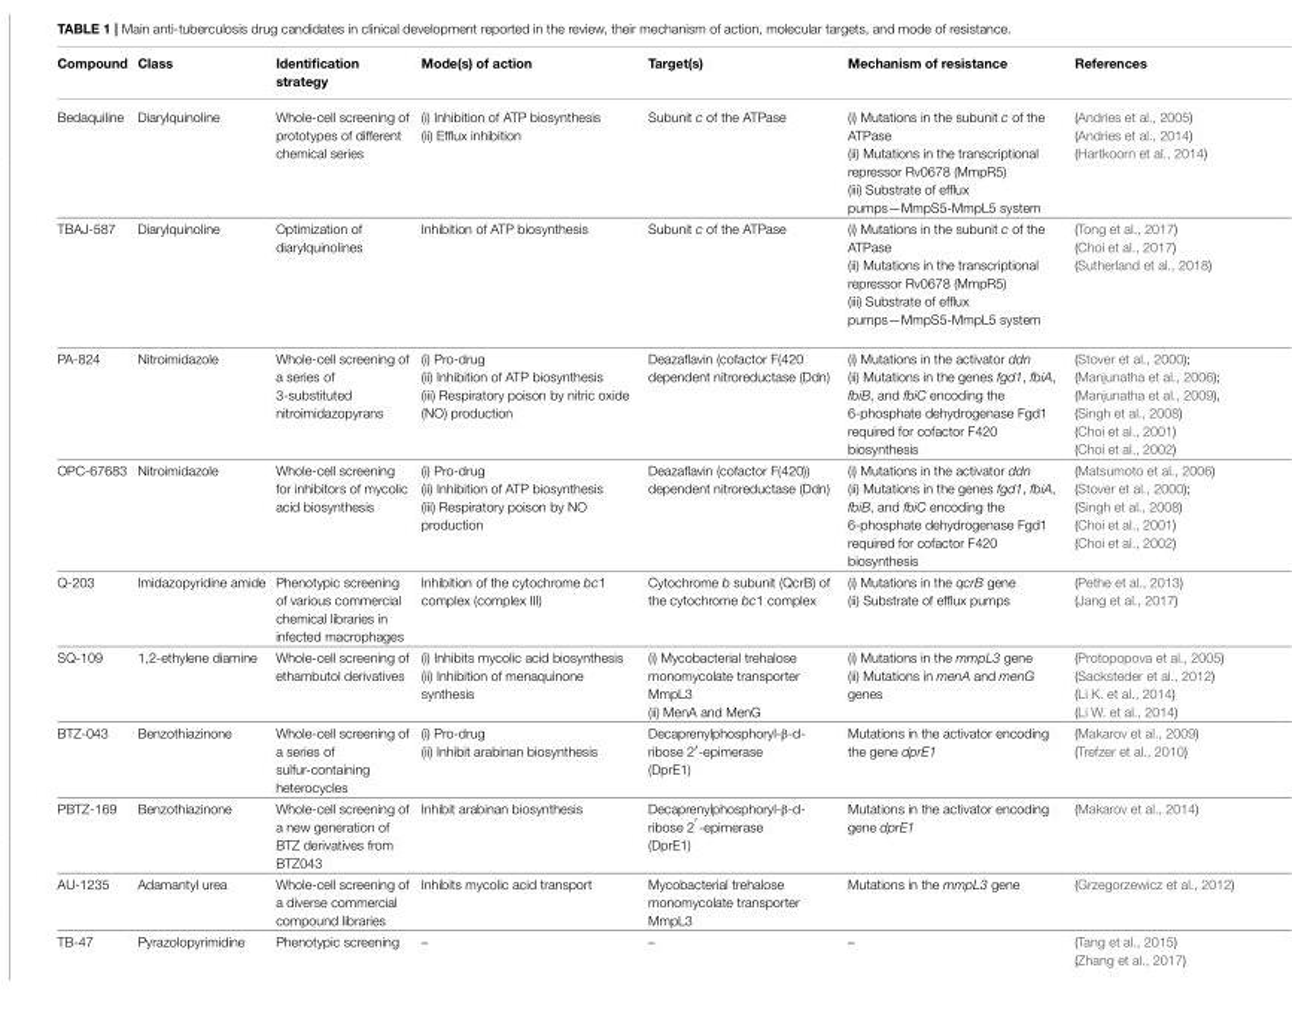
<table><thead><tr><td>Compound</td><td>Class</td><td>Identification strategy</td><td>Mode(s) of action</td><td>Target(s)</td><td>Mechanism of resistance</td><td>References</td></tr></thead><tbody><tr><td>Bedaquiline</td><td>Diarylquinoline</td><td>Whole-cell screening of prototypes of different chemical series</td><td>(i) Inhibition of ATP biosynthesis (ii) Efflux inhibition</td><td>Subunit c of the ATPase</td><td>(i) Mutations in the subunit c of the ATPase (ii) Mutations in the transcriptional repressor Rv0678 (MmpR5) (iii) Substrate of efflux pumps—MmpS5-MmpL5 system</td><td>(Andries et al., 2005) (Andries et al., 2014) (Hartkoorn et al., 2014)</td></tr><tr><td>TBAJ-587</td><td>Diarylquinoline</td><td>Optimization of diarylquinolines</td><td>Inhibition of ATP biosynthesis</td><td>Subunit c of the ATPase</td><td>(i) Mutations in the subunit c of the ATPase (ii) Mutations in the transcriptional repressor Rv0678 (MmpR5) (iii) Substrate of efflux pumps—MmpS5-MmpL5 system</td><td>(Tong et al., 2017) (Choi et al., 2017) (Sutherland et al., 2018)</td></tr><tr><td>PA-824</td><td>Nitroimidazole</td><td>Whole-cell screening of a series of 3-substituted nitroimidazopyrans</td><td>(i) Pro-drug (ii) Inhibition of ATP biosynthesis (iii) Respiratory poison by nitric oxide (NO) production</td><td>Deazaflavin (cofactor F(420 dependent nitroreductase (Ddn)</td><td>(i) Mutations in the activator ddn (ii) Mutations in the genes fgd1, fbiA, fbiB, and fbiC encoding the 6-phosphate dehydrogenase Fgd1 required for cofactor F420 biosynthesis</td><td>(Stover et al., 2000); (Manjunatha et al., 2006); (Manjunatha et al., 2009), (Singh et al., 2008) (Choi et al., 2001) (Choi et al., 2002)</td></tr><tr><td>OPC-67683</td><td>Nitroimidazole</td><td>Whole-cell screening for inhibitors of mycolic acid biosynthesis</td><td>(i) Pro-drug (ii) Inhibition of ATP biosynthesis (iii) Respiratory poison by NO production</td><td>Deazaflavin (cofactor F(420)) dependent nitroreductase (Ddn)</td><td>(i) Mutations in the activator ddn (ii) Mutations in the genes fgd1, fbiA, fbiB, and fbiC encoding the 6-phosphate dehydrogenase Fgd1 required for cofactor F420 biosynthesis</td><td>(Matsumoto et al., 2006) (Stover et al., 2000); (Singh et al., 2008) (Choi et al., 2001) (Choi et al., 2002)</td></tr><tr><td>Q-203</td><td>Imidazopyridine amide</td><td>Phenotypic screening of various commercial chemical libraries in infected macrophages</td><td>Inhibition of the cytochrome bc1 complex (complex III)</td><td>Cytochrome b subunit (QcrB) of the cytochrome bc1 complex</td><td>(i) Mutations in the qcrB gene (ii) Substrate of efflux pumps</td><td>(Pethe et al., 2013) (Jang et al., 2017)</td></tr><tr><td>SQ-109</td><td>1,2-ethylene diamine</td><td>Whole-cell screening of ethambutol derivatives</td><td>(i) Inhibits mycolic acid biosynthesis (ii) Inhibition of menaquinone synthesis</td><td>(i) Mycobacterial trehalose monomycolate transporter MmpL3 (ii) MenA and MenG</td><td>(i) Mutations in the mmpL3 gene (ii) Mutations in menA and menG genes</td><td>(Protopopova et al., 2005) (Sacksteder et al., 2012) (Li K. et al., 2014) (Li W. et al., 2014)</td></tr><tr><td>BTZ-043</td><td>Benzothiazinone</td><td>Whole-cell screening of a series of sulfur-containing heterocycles</td><td>(i) Pro-drug (ii) Inhibit arabinan biosynthesis</td><td>Decaprenylphosphoryl-β-d- ribose 2′-epimerase (DprE1)</td><td>Mutations in the activator encoding the gene dprE1</td><td>(Makarov et al., 2009) (Trefzer et al., 2010)</td></tr><tr><td>PBTZ-169</td><td>Benzothiazinone</td><td>Whole-cell screening of a new generation of BTZ derivatives from BTZ043</td><td>Inhibit arabinan biosynthesis</td><td>Decaprenylphosphoryl-β-d- ribose 2 ′-epimerase (DprE1)</td><td>Mutations in the activator encoding gene dprE1</td><td>(Makarov et al., 2014)</td></tr><tr><td>AU-1235</td><td>Adamantyl urea</td><td>Whole-cell screening of a diverse commercial compound libraries</td><td>Inhibits mycolic acid transport</td><td>Mycobacterial trehalose monomycolate transporter MmpL3</td><td>Mutations in the mmpL3 gene</td><td>(Grzegorzewicz et al., 2012)</td></tr><tr><td>TB-47</td><td>Pyrazolopyrimidine</td><td>Phenotypic screening</td><td>–</td><td>–</td><td>–</td><td>(Tang et al., 2015) (Zhang et al., 2017)</td></tr></tbody></table>